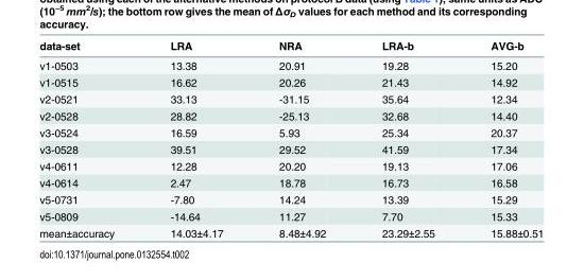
<table><thead><tr><td>data-set</td><td>LRA</td><td>NRA</td><td>LRA-b</td><td>AVG-b</td></tr></thead><tbody><tr><td>v1-0503</td><td>13.38</td><td>20.91</td><td>19.28</td><td>15.20</td></tr><tr><td>v1-0515</td><td>16.62</td><td>20.26</td><td>21.43</td><td>14.92</td></tr><tr><td>v2-0521</td><td>33.13</td><td>-31.15</td><td>35.64</td><td>12.34</td></tr><tr><td>v2-0528</td><td>28.82</td><td>-25.13</td><td>32.68</td><td>14.40</td></tr><tr><td>v3-0524</td><td>16.59</td><td>5.93</td><td>25.34</td><td>20.37</td></tr><tr><td>v3-0528</td><td>39.51</td><td>29.52</td><td>41.59</td><td>17.34</td></tr><tr><td>v4-0611</td><td>12.28</td><td>20.20</td><td>19.13</td><td>17.06</td></tr><tr><td>v4-0614</td><td>2.47</td><td>18.78</td><td>16.73</td><td>16.58</td></tr><tr><td>v5-0731</td><td>-7.80</td><td>14.24</td><td>13.39</td><td>15.29</td></tr><tr><td>v5-0809</td><td>-14.64</td><td>11.27</td><td>7.70</td><td>15.33</td></tr><tr><td>mean±accuracy</td><td>14.03±4.17</td><td>8.48±4.92</td><td>23.29±2.55</td><td>15.88±0.51</td></tr></tbody></table>